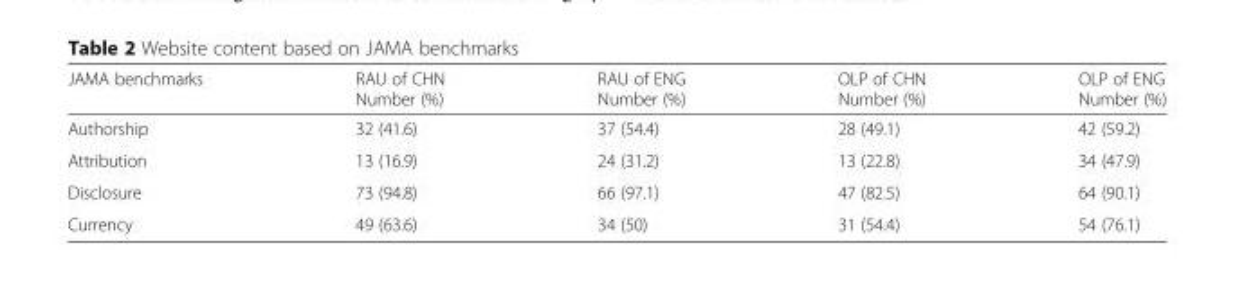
<table><thead><tr><td>JAMA benchmarks</td><td>RAU of CHN Number (%)</td><td>RAU of ENG Number (%)</td><td>OLP of CHN Number (%)</td><td>OLP of ENG Number (%)</td></tr></thead><tbody><tr><td>Authorship</td><td>32 (41.6)</td><td>37 (54.4)</td><td>28 (49.1)</td><td>42 (59.2)</td></tr><tr><td>Attribution</td><td>13 (16.9)</td><td>24 (31.2)</td><td>13 (22.8)</td><td>34 (47.9)</td></tr><tr><td>Disclosure</td><td>73 (94.8)</td><td>66 (97.1)</td><td>47 (82.5)</td><td>64 (90.1)</td></tr><tr><td>Currency</td><td>49 (63.6)</td><td>34 (50)</td><td>31 (54.4)</td><td>54 (76.1)</td></tr></tbody></table>